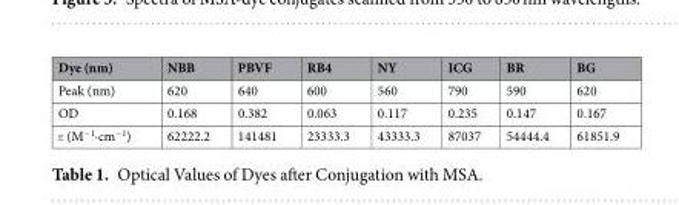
<table><thead><tr><td>Dye (nm)</td><td>NBB</td><td>PBVF</td><td>RB4</td><td>NY</td><td>ICG</td><td>BR</td><td>BG</td></tr></thead><tbody><tr><td>Peak (nm)</td><td>620</td><td>640</td><td>600</td><td>560</td><td>790</td><td>590</td><td>620</td></tr><tr><td>OD</td><td>0.168</td><td>0.382</td><td>0.063</td><td>0.117</td><td>0.235</td><td>0.147</td><td>0.167</td></tr><tr><td>ε (M<sup>−1</sup>·cm<sup>−1</sup>)</td><td>62222.2</td><td>141481</td><td>23333.3</td><td>43333.3</td><td>87037</td><td>54444.4</td><td>61851.9</td></tr></tbody></table>